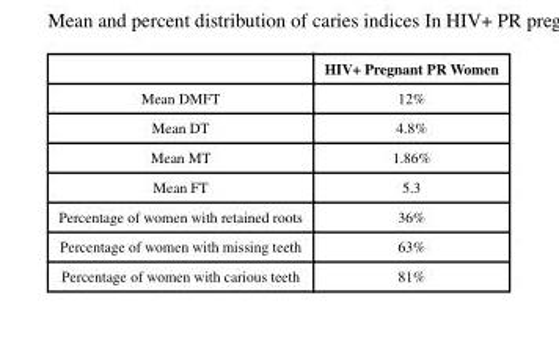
<table><thead><tr><td></td><td>HIV+ Pregnant PR Women</td></tr></thead><tbody><tr><td>Mean DMFT</td><td>12%</td></tr><tr><td>Mean DT</td><td>4.8%</td></tr><tr><td>Mean MT</td><td>1.86%</td></tr><tr><td>Mean FT</td><td>5.3</td></tr><tr><td>Percentage of women with retained roots</td><td>36%</td></tr><tr><td>Percentage of women with missing teeth</td><td>63%</td></tr><tr><td>Percentage of women with carious teeth</td><td>81%</td></tr></tbody></table>